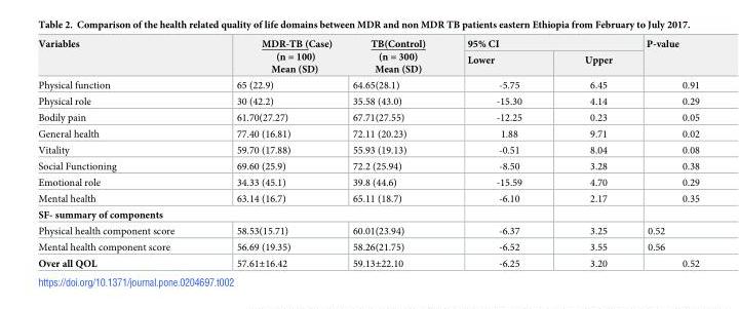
<table><thead><tr><td rowspan="3">Variables Physical function</td><td rowspan="2" colspan="2">MDR-TB (Case) TB(Control) (n = 100) (n = 300) Mean (SD) Mean (SD)</td><td colspan="2">95% CI</td><td rowspan="3">P-value 0.91</td></tr><tr><td rowspan="2">Lower -5.75</td><td rowspan="2">Upper 6.45</td></tr><tr><td>65 (22.9)</td><td>64.65(28.1)</td></tr></thead><tbody><tr><td>Physical role</td><td>30 (42.2)</td><td>35.58 (43.0)</td><td>-15.30</td><td>4.14</td><td>0.29</td></tr><tr><td>Bodily pain</td><td>61.70(27.27)</td><td>67.71(27.55)</td><td>-12.25</td><td>0.23</td><td>0.05</td></tr><tr><td>General health</td><td>77.40 (16.81)</td><td>72.11 (20.23)</td><td>1.88</td><td>9.71</td><td>0.02</td></tr><tr><td>Vitality</td><td>59.70 (17.88)</td><td>55.93 (19.13)</td><td>-0.51</td><td>8.04</td><td>0.08</td></tr><tr><td>Social Functioning</td><td>69.60 (25.9)</td><td>72.2 (25.94)</td><td>-8.50</td><td>3.28</td><td>0.38</td></tr><tr><td>Emotional role</td><td>34.33 (45.1)</td><td>39.8 (44.6)</td><td>-15.59</td><td>4.70</td><td>0.29</td></tr><tr><td>Mental health</td><td>63.14 (16.7)</td><td>65.11 (18.7)</td><td>-6.10</td><td>2.17</td><td>0.35</td></tr><tr><td colspan="6">SF- summary of components</td></tr><tr><td>Physical health component score</td><td>58.53(15.71)</td><td>60.01(23.94)</td><td>-6.37</td><td>3.25</td><td>0.52</td></tr><tr><td>Mental health component score</td><td>56.69 (19.35)</td><td>58.26(21.75)</td><td>-6.52</td><td>3.55</td><td>0.56</td></tr><tr><td>Over all QOL</td><td>57.61±16.42</td><td>59.13±22.10</td><td>-6.25</td><td>3.20</td><td>0.52</td></tr></tbody></table>